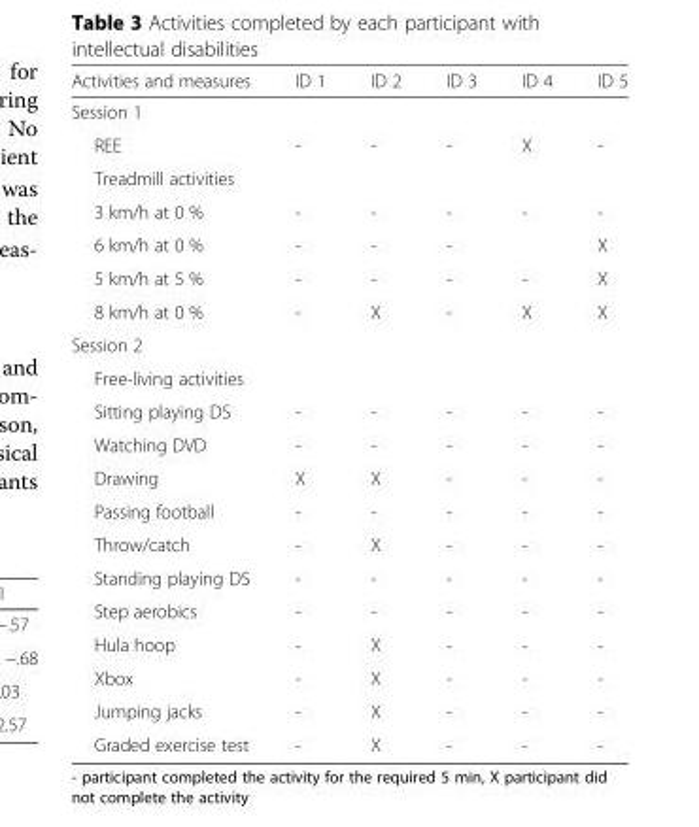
<table><thead><tr><td>Activities and measures</td><td>ID 1</td><td>ID 2</td><td>ID 3</td><td>ID 4</td><td>ID 5</td></tr></thead><tbody><tr><td colspan="6">Session 1</td></tr><tr><td>REE</td><td>-</td><td>-</td><td>-</td><td>X</td><td>-</td></tr><tr><td colspan="6">Treadmill activities</td></tr><tr><td>3 km/h at 0 %</td><td>-</td><td>-</td><td>-</td><td>-</td><td>-</td></tr><tr><td>6 km/h at 0 %</td><td>-</td><td>-</td><td>-</td><td></td><td>X</td></tr><tr><td>5 km/h at 5 %</td><td>-</td><td>-</td><td>-</td><td>-</td><td>X</td></tr><tr><td>8 km/h at 0 %</td><td>-</td><td>X</td><td>-</td><td>X</td><td>X</td></tr><tr><td colspan="6">Session 2</td></tr><tr><td colspan="6">Free-living activities</td></tr><tr><td>Sitting playing DS</td><td>-</td><td>-</td><td>-</td><td>-</td><td>-</td></tr><tr><td>Watching DVD</td><td>-</td><td>-</td><td>-</td><td>-</td><td>-</td></tr><tr><td>Drawing</td><td>X</td><td>X</td><td>-</td><td>-</td><td>-</td></tr><tr><td>Passing football</td><td>-</td><td>-</td><td>-</td><td>-</td><td>-</td></tr><tr><td>Throw/catch</td><td>-</td><td>X</td><td>-</td><td>-</td><td>-</td></tr><tr><td>Standing playing DS</td><td>-</td><td>-</td><td>-</td><td>-</td><td>-</td></tr><tr><td>Step aerobics</td><td>-</td><td>-</td><td>-</td><td>-</td><td>-</td></tr><tr><td>Hula hoop</td><td>-</td><td>X</td><td>-</td><td>-</td><td>-</td></tr><tr><td>Xbox</td><td>-</td><td>X</td><td>-</td><td>-</td><td>-</td></tr><tr><td>Jumping jacks</td><td>-</td><td>X</td><td>-</td><td>-</td><td>-</td></tr><tr><td>Graded exercise test</td><td>-</td><td>X</td><td>-</td><td>-</td><td>-</td></tr></tbody></table>